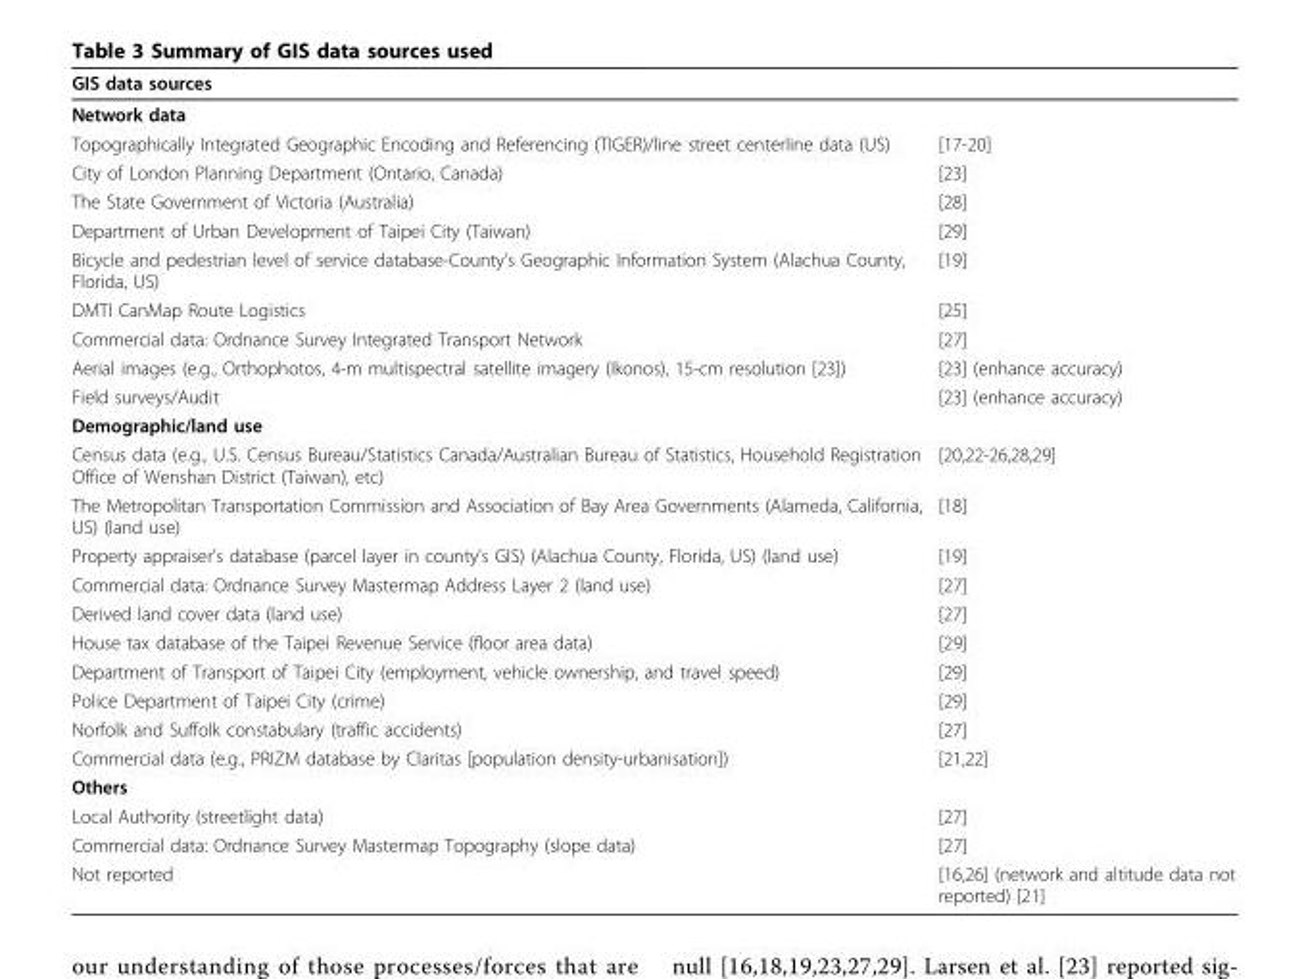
<table><thead><tr><td>GIS data sources</td><td></td></tr></thead><tbody><tr><td colspan="2">Network data</td></tr><tr><td>Topographically Integrated Geographic Encoding and Referencing (TIGER)/line street centerline data (US)</td><td>[17-20]</td></tr><tr><td>City of London Planning Department (Ontario, Canada)</td><td>[23]</td></tr><tr><td>The State Government of Victoria (Australia)</td><td>[28]</td></tr><tr><td>Department of Urban Development of Taipei City (Taiwan)</td><td>[29]</td></tr><tr><td>Bicycle and pedestrian level of service database-County’s Geographic Information System (Alachua County, Florida, US)</td><td>[19]</td></tr><tr><td>DMTI CanMap Route Logistics</td><td>[25]</td></tr><tr><td>Commercial data: Ordnance Survey Integrated Transport Network</td><td>[27]</td></tr><tr><td>Aerial images (e.g., Orthophotos, 4-m multispectral satellite imagery (Ikonos), 15-cm resolution [23])</td><td>[23] (enhance accuracy)</td></tr><tr><td>Field surveys/Audit</td><td>[23] (enhance accuracy)</td></tr><tr><td colspan="2">Demographic/land use</td></tr><tr><td>Census data (e.g., U.S. Census Bureau/Statistics Canada/Australian Bureau of Statistics, Household Registration Office of Wenshan District (Taiwan), etc)</td><td>[20,22-26,28,29]</td></tr><tr><td>The Metropolitan Transportation Commission and Association of Bay Area Governments (Alameda, California, US) (land use)</td><td>[18]</td></tr><tr><td>Property appraiser’s database (parcel layer in county’s GIS) (Alachua County, Florida, US) (land use)</td><td>[19]</td></tr><tr><td>Commercial data: Ordnance Survey Mastermap Address Layer 2 (land use)</td><td>[27]</td></tr><tr><td>Derived land cover data (land use)</td><td>[27]</td></tr><tr><td>House tax database of the Taipei Revenue Service (floor area data)</td><td>[29]</td></tr><tr><td>Department of Transport of Taipei City (employment, vehicle ownership, and travel speed)</td><td>[29]</td></tr><tr><td>Police Department of Taipei City (crime)</td><td>[29]</td></tr><tr><td>Norfolk and Suffolk constabulary (traffic accidents)</td><td>[27]</td></tr><tr><td>Commercial data (e.g., PRIZM database by Claritas [population density-urbanisation])</td><td>[21,22]</td></tr><tr><td colspan="2">Others</td></tr><tr><td>Local Authority (streetlight data)</td><td>[27]</td></tr><tr><td>Commercial data: Ordnance Survey Mastermap Topography (slope data)</td><td>[27]</td></tr><tr><td>Not reported</td><td>[16,26] (network and altitude data not reported) [21]</td></tr></tbody></table>